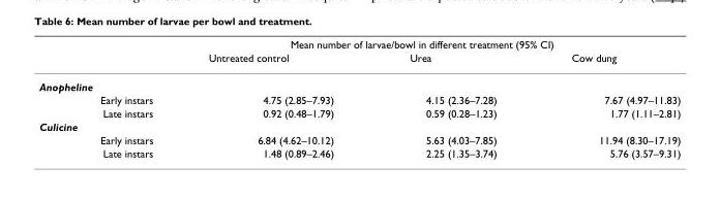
<table><thead><tr><td rowspan="2"></td><td colspan="3">Mean number of larvae/bowl in different treatment (95% CI)</td></tr><tr><td>Untreated control</td><td>Urea</td><td>Cow dung</td></tr></thead><tbody><tr><td colspan="4">Anopheline</td></tr><tr><td>Early instars</td><td>4.75 (2.85–7.93)</td><td>4.15 (2.36–7.28)</td><td>7.67 (4.97–11.83)</td></tr><tr><td>Late instars</td><td>0.92 (0.48–1.79)</td><td>0.59 (0.28–1.23)</td><td>1.77 (1.11–2.81)</td></tr><tr><td colspan="4">Culicine</td></tr><tr><td>Early instars</td><td>6.84 (4.62–10.12)</td><td>5.63 (4.03–7.85)</td><td>11.94 (8.30–17.19)</td></tr><tr><td>Late instars</td><td>1.48 (0.89–2.46)</td><td>2.25 (1.35–3.74)</td><td>5.76 (3.57–9.31)</td></tr></tbody></table>